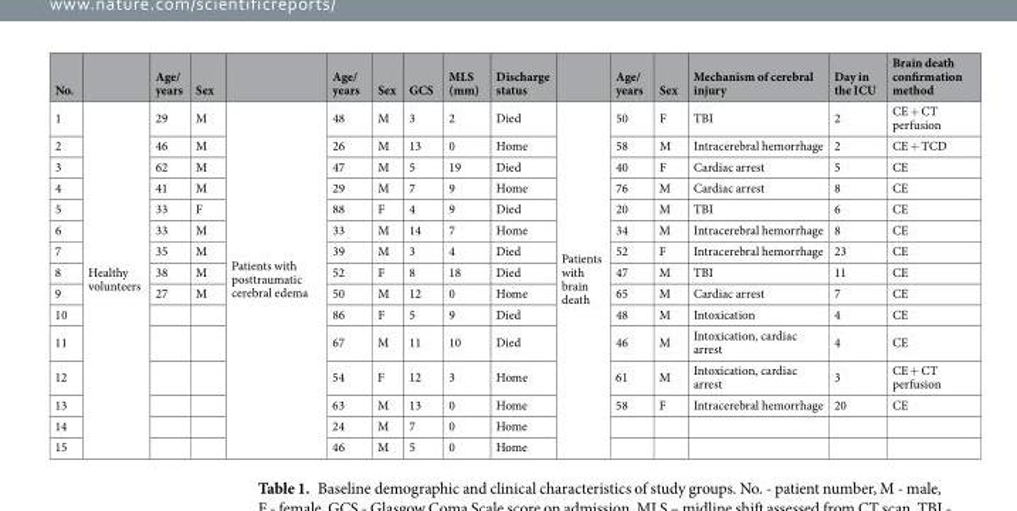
<table><thead><tr><td>No.</td><td></td><td>Age/ years</td><td>Sex</td><td></td><td>Age/ years</td><td>Sex</td><td>GCS</td><td>MLS (mm)</td><td>Discharge status</td><td></td><td>Age/ years</td><td>Sex</td><td>Mechanism of cerebral injury</td><td>Day in the ICU</td><td>Brain death confirmation method</td></tr></thead><tbody><tr><td>1</td><td rowspan="15">Healthy volunteers</td><td>29</td><td>M</td><td rowspan="15">Patients with posttraumatic cerebral edema</td><td>48</td><td>M</td><td>3</td><td>2</td><td>Died</td><td rowspan="15">Patients with brain death</td><td>50</td><td>F</td><td>TBI</td><td>2</td><td>CE + CT perfusion</td></tr><tr><td>2</td><td>46</td><td>M</td><td>26</td><td>M</td><td>13</td><td>0</td><td>Home</td><td>58</td><td>M</td><td>Intracerebral hemorrhage</td><td>2</td><td>CE + TCD</td></tr><tr><td>3</td><td>62</td><td>M</td><td>47</td><td>M</td><td>5</td><td>19</td><td>Died</td><td>40</td><td>F</td><td>Cardiac arrest</td><td>5</td><td>CE</td></tr><tr><td>4</td><td>41</td><td>M</td><td>29</td><td>M</td><td>7</td><td>9</td><td>Home</td><td>76</td><td>M</td><td>Cardiac arrest</td><td>8</td><td>CE</td></tr><tr><td>5</td><td>33</td><td>F</td><td>88</td><td>F</td><td>4</td><td>9</td><td>Died</td><td>20</td><td>M</td><td>TBI</td><td>6</td><td>CE</td></tr><tr><td>6</td><td>33</td><td>M</td><td>33</td><td>M</td><td>14</td><td>7</td><td>Home</td><td>34</td><td>M</td><td>Intracerebral hemorrhage</td><td>8</td><td>CE</td></tr><tr><td>7</td><td>35</td><td>M</td><td>39</td><td>M</td><td>3</td><td>4</td><td>Died</td><td>52</td><td>F</td><td>Intracerebral hemorrhage</td><td>23</td><td>CE</td></tr><tr><td>8</td><td>38</td><td>M</td><td>52</td><td>F</td><td>8</td><td>18</td><td>Died</td><td>47</td><td>M</td><td>TBI</td><td>11</td><td>CE</td></tr><tr><td>9</td><td>27</td><td>M</td><td>50</td><td>M</td><td>12</td><td>0</td><td>Home</td><td>65</td><td>M</td><td>Cardiac arrest</td><td>7</td><td>CE</td></tr><tr><td>10</td><td></td><td></td><td>86</td><td>F</td><td>5</td><td>9</td><td>Died</td><td>48</td><td>M</td><td>Intoxication</td><td>4</td><td>CE</td></tr><tr><td>11</td><td></td><td></td><td>67</td><td>M</td><td>11</td><td>10</td><td>Died</td><td>46</td><td>M</td><td>Intoxication, cardiac arrest</td><td>4</td><td>CE</td></tr><tr><td>12</td><td></td><td></td><td>54</td><td>F</td><td>12</td><td>3</td><td>Home</td><td>61</td><td>M</td><td>Intoxication, cardiac arrest</td><td>3</td><td>CE + CT perfusion</td></tr><tr><td>13</td><td></td><td></td><td>63</td><td>M</td><td>13</td><td>0</td><td>Home</td><td>58</td><td>F</td><td>Intracerebral hemorrhage</td><td>20</td><td>CE</td></tr><tr><td>14</td><td></td><td></td><td>24</td><td>M</td><td>7</td><td>0</td><td>Home</td><td></td><td></td><td></td><td></td><td></td></tr><tr><td>15</td><td></td><td></td><td>46</td><td>M</td><td>5</td><td>0</td><td>Home</td><td></td><td></td><td></td><td></td><td></td></tr></tbody></table>